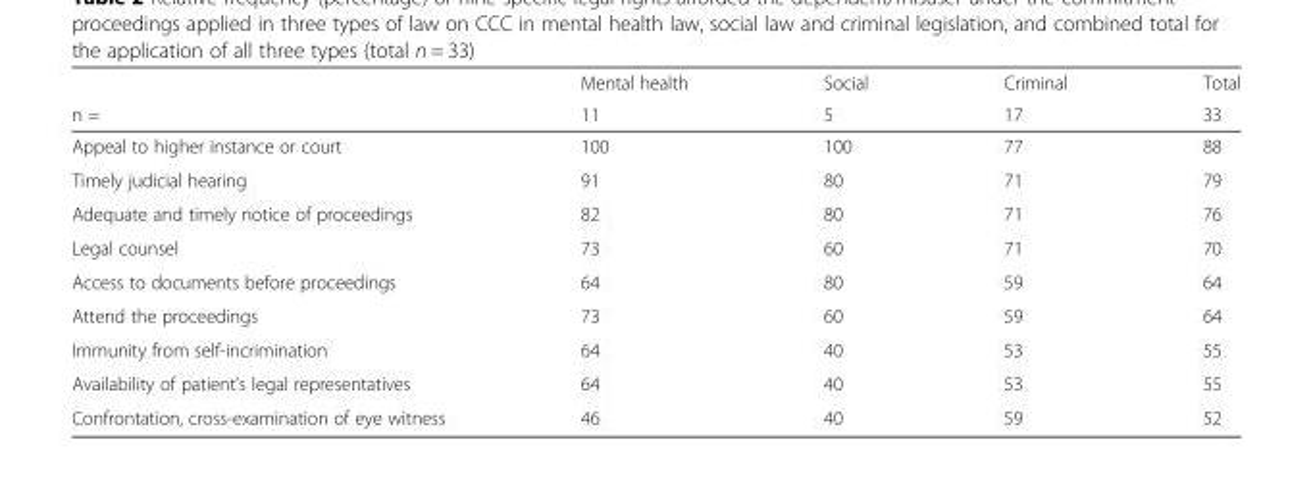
<table><thead><tr><td rowspan="2">n =</td><td rowspan="2">Mental health 11</td><td rowspan="2">Social 5</td><td rowspan="2">Criminal 17</td><td rowspan="2">Total 33</td></tr><tr></tr></thead><tbody><tr><td>Appeal to higher instance or court</td><td>100</td><td>100</td><td>77</td><td>88</td></tr><tr><td>Timely judicial hearing</td><td>91</td><td>80</td><td>71</td><td>79</td></tr><tr><td>Adequate and timely notice of proceedings</td><td>82</td><td>80</td><td>71</td><td>76</td></tr><tr><td>Legal counsel</td><td>73</td><td>60</td><td>71</td><td>70</td></tr><tr><td>Access to documents before proceedings</td><td>64</td><td>80</td><td>59</td><td>64</td></tr><tr><td>Attend the proceedings</td><td>73</td><td>60</td><td>59</td><td>64</td></tr><tr><td>Immunity from self-incrimination</td><td>64</td><td>40</td><td>53</td><td>55</td></tr><tr><td>Availability of patient’s legal representatives</td><td>64</td><td>40</td><td>53</td><td>55</td></tr><tr><td>Confrontation, cross-examination of eye witness</td><td>46</td><td>40</td><td>59</td><td>52</td></tr></tbody></table>